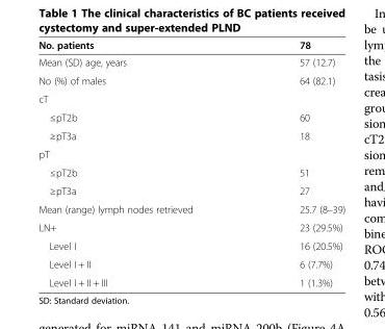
<table><thead><tr><td>No. patients</td><td>78</td></tr></thead><tbody><tr><td>Mean (SD) age, years</td><td>57 (12.7)</td></tr><tr><td>No (%) of males</td><td>64 (82.1)</td></tr><tr><td colspan="2">cT</td></tr><tr><td>≤pT2b</td><td>60</td></tr><tr><td>≥pT3a</td><td>18</td></tr><tr><td colspan="2">pT</td></tr><tr><td>≤pT2b</td><td>51</td></tr><tr><td>≥pT3a</td><td>27</td></tr><tr><td>Mean (range) lymph nodes retrieved</td><td>25.7 (8–39)</td></tr><tr><td>LN+</td><td>23 (29.5%)</td></tr><tr><td>Level I</td><td>16 (20.5%)</td></tr><tr><td>Level I + II</td><td>6 (7.7%)</td></tr><tr><td>Level I + II + III</td><td>1 (1.3%)</td></tr></tbody></table>